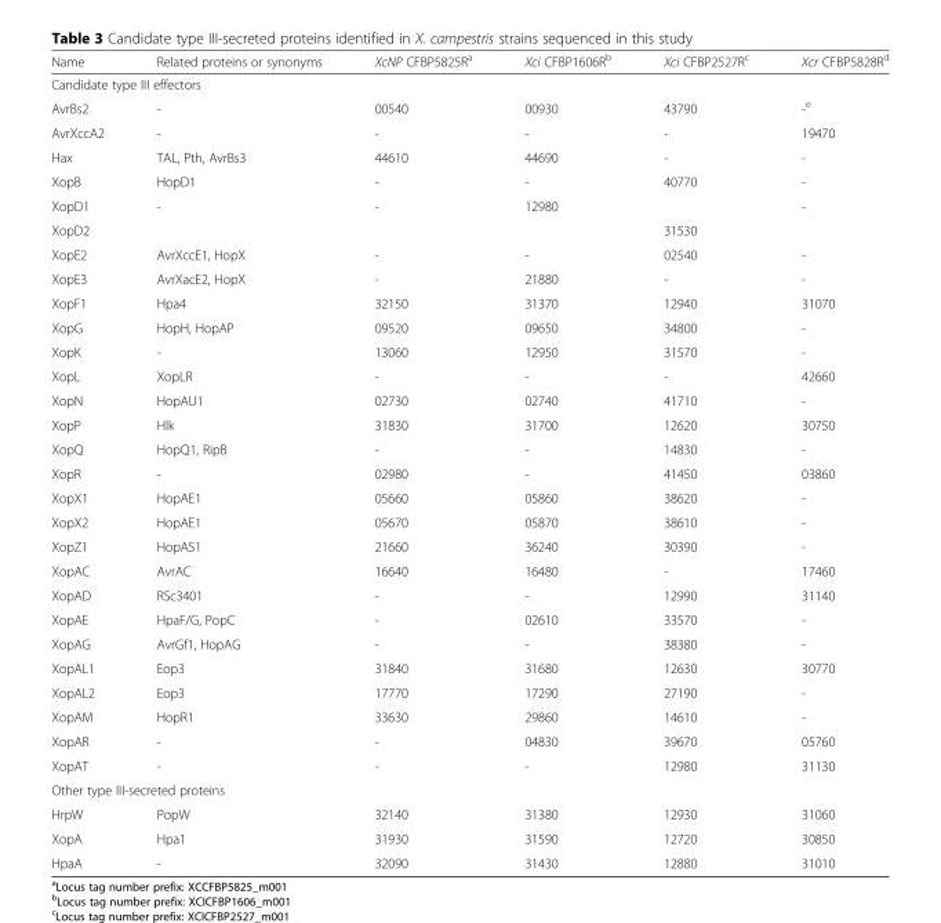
<table><thead><tr><td>Name</td><td>Related proteins or synonyms</td><td>XcNP CFBP5825R<sup>a</sup></td><td>Xci CFBP1606R<sup>b</sup></td><td>Xci CFBP2527R<sup>c</sup></td><td>Xcr CFBP5828R<sup>d</sup></td></tr></thead><tbody><tr><td colspan="6">Candidate type III effectors</td></tr><tr><td>AvrBs2</td><td>-</td><td>00540</td><td>00930</td><td>43790</td><td>-<sup>e</sup></td></tr><tr><td>AvrXccA2</td><td>-</td><td>-</td><td>-</td><td>-</td><td>19470</td></tr><tr><td>Hax</td><td>TAL, Pth, AvrBs3</td><td>44610</td><td>44690</td><td>-</td><td>-</td></tr><tr><td>XopB</td><td>HopD1</td><td>-</td><td>-</td><td>40770</td><td>-</td></tr><tr><td>XopD1</td><td>-</td><td>-</td><td>12980</td><td></td><td>-</td></tr><tr><td>XopD2</td><td></td><td></td><td></td><td>31530</td><td></td></tr><tr><td>XopE2</td><td>AvrXccE1, HopX</td><td>-</td><td>-</td><td>02540</td><td>-</td></tr><tr><td>XopE3</td><td>AvrXacE2, HopX</td><td>-</td><td>21880</td><td>-</td><td>-</td></tr><tr><td>XopF1</td><td>Hpa4</td><td>32150</td><td>31370</td><td>12940</td><td>31070</td></tr><tr><td>XopG</td><td>HopH, HopAP</td><td>09520</td><td>09650</td><td>34800</td><td>-</td></tr><tr><td>XopK</td><td>-</td><td>13060</td><td>12950</td><td>31570</td><td>-</td></tr><tr><td>XopL</td><td>XopLR</td><td>-</td><td>-</td><td>-</td><td>42660</td></tr><tr><td>XopN</td><td>HopAU1</td><td>02730</td><td>02740</td><td>41710</td><td>-</td></tr><tr><td>XopP</td><td>Hlk</td><td>31830</td><td>31700</td><td>12620</td><td>30750</td></tr><tr><td>XopQ</td><td>HopQ1, RipB</td><td>-</td><td>-</td><td>14830</td><td>-</td></tr><tr><td>XopR</td><td>-</td><td>02980</td><td>-</td><td>41450</td><td>03860</td></tr><tr><td>XopX1</td><td>HopAE1</td><td>05660</td><td>05860</td><td>38620</td><td>-</td></tr><tr><td>XopX2</td><td>HopAE1</td><td>05670</td><td>05870</td><td>38610</td><td>-</td></tr><tr><td>XopZ1</td><td>HopAS1</td><td>21660</td><td>36240</td><td>30390</td><td>-</td></tr><tr><td>XopAC</td><td>AvrAC</td><td>16640</td><td>16480</td><td>-</td><td>17460</td></tr><tr><td>XopAD</td><td>RSc3401</td><td>-</td><td>-</td><td>12990</td><td>31140</td></tr><tr><td>XopAE</td><td>HpaF/G, PopC</td><td>-</td><td>02610</td><td>33570</td><td>-</td></tr><tr><td>XopAG</td><td>AvrGf1, HopAG</td><td>-</td><td>-</td><td>38380</td><td>-</td></tr><tr><td>XopAL1</td><td>Eop3</td><td>31840</td><td>31680</td><td>12630</td><td>30770</td></tr><tr><td>XopAL2</td><td>Eop3</td><td>17770</td><td>17290</td><td>27190</td><td>-</td></tr><tr><td>XopAM</td><td>HopR1</td><td>33630</td><td>29860</td><td>14610</td><td>-</td></tr><tr><td>XopAR</td><td>-</td><td>-</td><td>04830</td><td>39670</td><td>05760</td></tr><tr><td>XopAT</td><td>-</td><td>-</td><td>-</td><td>12980</td><td>31130</td></tr><tr><td colspan="6">Other type III-secreted proteins</td></tr><tr><td>HrpW</td><td>PopW</td><td>32140</td><td>31380</td><td>12930</td><td>31060</td></tr><tr><td>XopA</td><td>Hpa1</td><td>31930</td><td>31590</td><td>12720</td><td>30850</td></tr><tr><td>HpaA</td><td>-</td><td>32090</td><td>31430</td><td>12880</td><td>31010</td></tr></tbody></table>